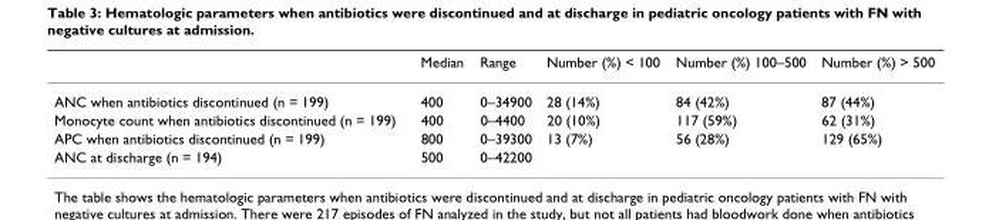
<table><thead><tr><td></td><td>Median</td><td>Range</td><td>Number (%) &lt; 100</td><td>Number (%) 100–500</td><td>Number (%) &gt; 500</td></tr></thead><tbody><tr><td>ANC when antibiotics discontinued (n = 199)</td><td>400</td><td>0–34900</td><td>28 (14%)</td><td>84 (42%)</td><td>87 (44%)</td></tr><tr><td>Monocyte count when antibiotics discontinued (n = 199)</td><td>400</td><td>0–4400</td><td>20 (10%)</td><td>117 (59%)</td><td>62 (31%)</td></tr><tr><td>APC when antibiotics discontinued (n = 199)</td><td>800</td><td>0–39300</td><td>13 (7%)</td><td>56 (28%)</td><td>129 (65%)</td></tr><tr><td>ANC at discharge (n = 194)</td><td>500</td><td>0–42200</td><td></td><td></td><td></td></tr></tbody></table>